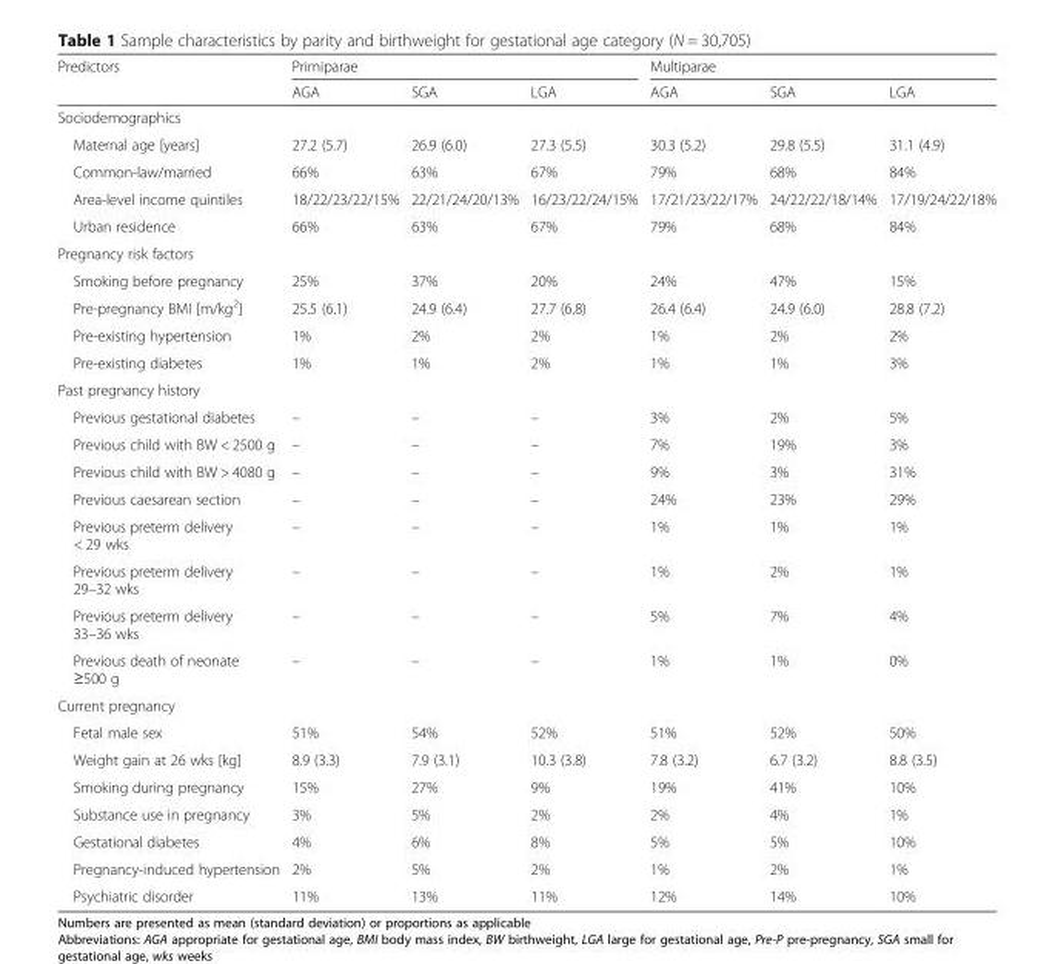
<table><thead><tr><td rowspan="2">Predictors</td><td colspan="3">Primiparae</td><td colspan="3">Multiparae</td></tr><tr><td>AGA</td><td>SGA</td><td>LGA</td><td>AGA</td><td>SGA</td><td>LGA</td></tr></thead><tbody><tr><td colspan="7">Sociodemographics</td></tr><tr><td>Maternal age [years]</td><td>27.2 (5.7)</td><td>26.9 (6.0)</td><td>27.3 (5.5)</td><td>30.3 (5.2)</td><td>29.8 (5.5)</td><td>31.1 (4.9)</td></tr><tr><td>Common-law/married</td><td>66%</td><td>63%</td><td>67%</td><td>79%</td><td>68%</td><td>84%</td></tr><tr><td>Area-level income quintiles</td><td>18/22/23/22/15%</td><td>22/21/24/20/13%</td><td>16/23/22/24/15%</td><td>17/21/23/22/17%</td><td>24/22/22/18/14%</td><td>17/19/24/22/18%</td></tr><tr><td>Urban residence</td><td>66%</td><td>63%</td><td>67%</td><td>79%</td><td>68%</td><td>84%</td></tr><tr><td colspan="7">Pregnancy risk factors</td></tr><tr><td>Smoking before pregnancy</td><td>25%</td><td>37%</td><td>20%</td><td>24%</td><td>47%</td><td>15%</td></tr><tr><td>Pre-pregnancy BMI [m/kg<sup>2</sup>]</td><td>25.5 (6.1)</td><td>24.9 (6.4)</td><td>27.7 (6.8)</td><td>26.4 (6.4)</td><td>24.9 (6.0)</td><td>28.8 (7.2)</td></tr><tr><td>Pre-existing hypertension</td><td>1%</td><td>2%</td><td>2%</td><td>1%</td><td>2%</td><td>2%</td></tr><tr><td>Pre-existing diabetes</td><td>1%</td><td>1%</td><td>2%</td><td>1%</td><td>1%</td><td>3%</td></tr><tr><td colspan="7">Past pregnancy history</td></tr><tr><td>Previous gestational diabetes</td><td>–</td><td>–</td><td>–</td><td>3%</td><td>2%</td><td>5%</td></tr><tr><td>Previous child with BW &lt; 2500 g</td><td>–</td><td>–</td><td>–</td><td>7%</td><td>19%</td><td>3%</td></tr><tr><td>Previous child with BW &gt; 4080 g</td><td>–</td><td>–</td><td>–</td><td>9%</td><td>3%</td><td>31%</td></tr><tr><td>Previous caesarean section</td><td>–</td><td>–</td><td>–</td><td>24%</td><td>23%</td><td>29%</td></tr><tr><td>Previous preterm delivery &lt; 29 wks</td><td>–</td><td>–</td><td>–</td><td>1%</td><td>1%</td><td>1%</td></tr><tr><td>Previous preterm delivery 29–32 wks</td><td>–</td><td>–</td><td>–</td><td>1%</td><td>2%</td><td>1%</td></tr><tr><td>Previous preterm delivery 33–36 wks</td><td>–</td><td>–</td><td>–</td><td>5%</td><td>7%</td><td>4%</td></tr><tr><td>Previous death of neonate ≥500 g</td><td>–</td><td>–</td><td>–</td><td>1%</td><td>1%</td><td>0%</td></tr><tr><td colspan="7">Current pregnancy</td></tr><tr><td>Fetal male sex</td><td>51%</td><td>54%</td><td>52%</td><td>51%</td><td>52%</td><td>50%</td></tr><tr><td>Weight gain at 26 wks [kg]</td><td>8.9 (3.3)</td><td>7.9 (3.1)</td><td>10.3 (3.8)</td><td>7.8 (3.2)</td><td>6.7 (3.2)</td><td>8.8 (3.5)</td></tr><tr><td>Smoking during pregnancy</td><td>15%</td><td>27%</td><td>9%</td><td>19%</td><td>41%</td><td>10%</td></tr><tr><td>Substance use in pregnancy</td><td>3%</td><td>5%</td><td>2%</td><td>2%</td><td>4%</td><td>1%</td></tr><tr><td>Gestational diabetes</td><td>4%</td><td>6%</td><td>8%</td><td>5%</td><td>5%</td><td>10%</td></tr><tr><td>Pregnancy-induced hypertension</td><td>2%</td><td>5%</td><td>2%</td><td>1%</td><td>2%</td><td>1%</td></tr><tr><td>Psychiatric disorder</td><td>11%</td><td>13%</td><td>11%</td><td>12%</td><td>14%</td><td>10%</td></tr></tbody></table>